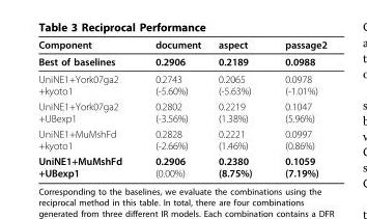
<table><thead><tr><td>Component</td><td>document</td><td>aspect</td><td>passage2</td></tr></thead><tbody><tr><td>Best of baselines</td><td>0.2906</td><td>0.2189</td><td>0.0988</td></tr><tr><td>UniNE1+York07ga2 +kyoto1</td><td>0.2743 (-5.60%)</td><td>0.2065 (-5.63%)</td><td>0.0978 (-1.01%)</td></tr><tr><td>UniNE1+York07ga2 +UBexp1</td><td>0.2802 (-3.56%)</td><td>0.2219 (1.38%)</td><td>0.1047 (5.96%)</td></tr><tr><td>UniNE1+MuMshFd +kyoto1</td><td>0.2828 (-2.66%)</td><td>0.2221 (1.46%)</td><td>0.0997 (0.86%)</td></tr><tr><td>UniNE1+MuMshFd +UBexp1</td><td>0.2906 (0.00%)</td><td>0.2380 (8.75%)</td><td>0.1059 (7.19%)</td></tr></tbody></table>